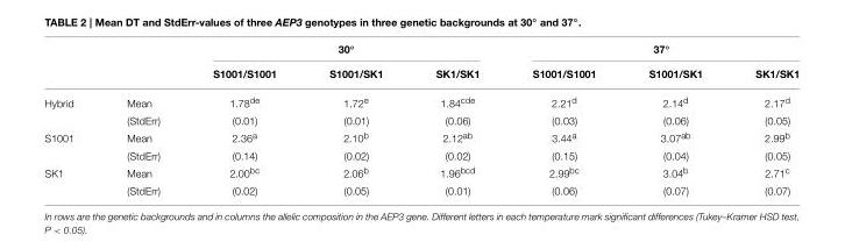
<table><thead><tr><td rowspan="2"></td><td rowspan="2"></td><td colspan="3">30◦</td><td colspan="3">37◦</td></tr><tr><td>S1001/S1001</td><td>S1001/SK1</td><td>SK1/SK1</td><td>S1001/S1001</td><td>S1001/SK1</td><td>SK1/SK1</td></tr></thead><tbody><tr><td rowspan="2">Hybrid</td><td>Mean</td><td>1.78<sup>de</sup></td><td>1.72<sup>e</sup></td><td>1.84<sup>cde</sup></td><td>2.21<sup>d</sup></td><td>2.14<sup>d</sup></td><td>2.17<sup>d</sup></td></tr><tr><td>(StdErr)</td><td>(0.01)</td><td>(0.01)</td><td>(0.06)</td><td>(0.03)</td><td>(0.06)</td><td>(0.05)</td></tr><tr><td rowspan="2">S1001</td><td>Mean</td><td>2.36<sup>a</sup></td><td>2.10<sup>b</sup></td><td>2.12<sup>ab</sup></td><td>3.44<sup>a</sup></td><td>3.07<sup>ab</sup></td><td>2.99<sup>b</sup></td></tr><tr><td>(StdErr)</td><td>(0.14)</td><td>(0.02)</td><td>(0.02)</td><td>(0.15)</td><td>(0.04)</td><td>(0.05)</td></tr><tr><td rowspan="2">SK1</td><td>Mean</td><td>2.00<sup>bc</sup></td><td>2.06<sup>b</sup></td><td>1.96<sup>bcd</sup></td><td>2.99<sup>bc</sup></td><td>3.04<sup>b</sup></td><td>2.71<sup>c</sup></td></tr><tr><td>(StdErr)</td><td>(0.02)</td><td>(0.05)</td><td>(0.01)</td><td>(0.06)</td><td>(0.07)</td><td>(0.07)</td></tr></tbody></table>